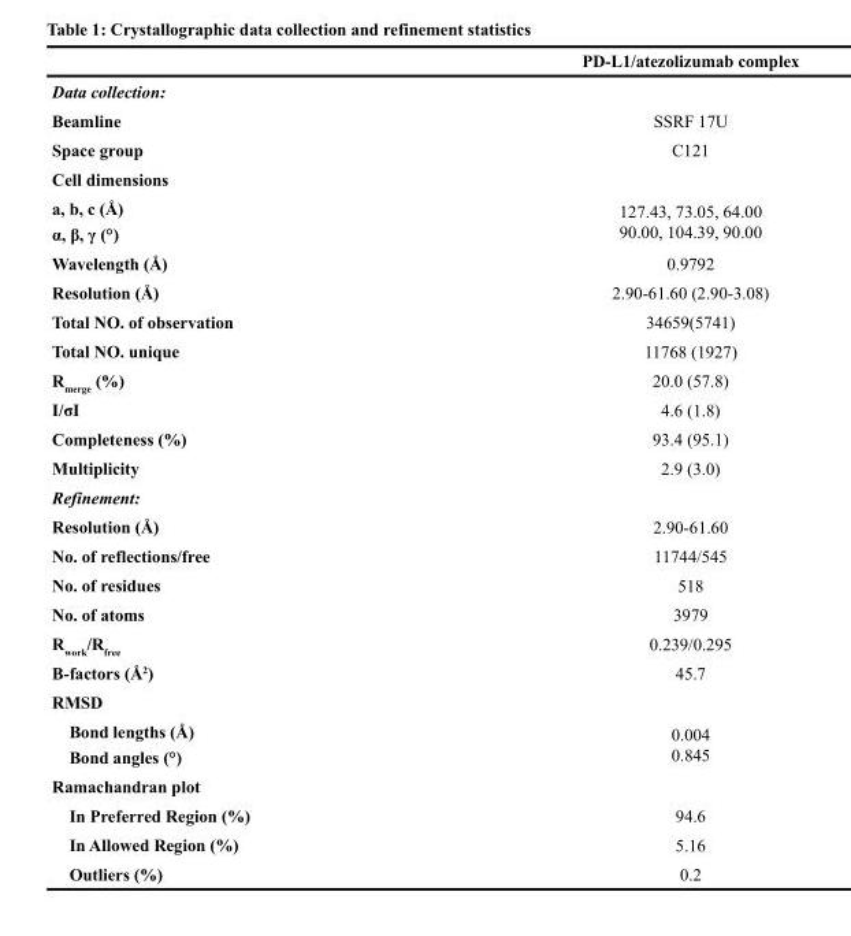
<table><thead><tr><td></td><td>PD-L1/atezolizumab complex</td></tr></thead><tbody><tr><td colspan="2">Data collection:</td></tr><tr><td>Beamline</td><td>SSRF 17U</td></tr><tr><td>Space group</td><td>C121</td></tr><tr><td colspan="2">Cell dimensions</td></tr><tr><td>a, b, c (Å) α, β, γ (°)</td><td>127.43, 73.05, 64.00 90.00, 104.39, 90.00</td></tr><tr><td>Wavelength (Å)</td><td>0.9792</td></tr><tr><td>Resolution (Å)</td><td>2.90-61.60 (2.90-3.08)</td></tr><tr><td>Total NO. of observation</td><td>34659(5741)</td></tr><tr><td>Total NO. unique</td><td>11768 (1927)</td></tr><tr><td>R<sub>merge</sub> (%)</td><td>20.0 (57.8)</td></tr><tr><td>I/σI</td><td>4.6 (1.8)</td></tr><tr><td>Completeness (%)</td><td>93.4 (95.1)</td></tr><tr><td>Multiplicity</td><td>2.9 (3.0)</td></tr><tr><td colspan="2">Refinement:</td></tr><tr><td>Resolution (Å)</td><td>2.90-61.60</td></tr><tr><td>No. of reflections/free</td><td>11744/545</td></tr><tr><td>No. of residues</td><td>518</td></tr><tr><td>No. of atoms</td><td>3979</td></tr><tr><td>R<sub>work</sub>/R<sub>free</sub></td><td>0.239/0.295</td></tr><tr><td>B-factors (Å<sup>2</sup>)</td><td>45.7</td></tr><tr><td colspan="2">RMSD</td></tr><tr><td>Bond lengths (Å) Bond angles (°)</td><td>0.004 0.845</td></tr><tr><td colspan="2">Ramachandran plot</td></tr><tr><td>In Preferred Region (%)</td><td>94.6</td></tr><tr><td>In Allowed Region (%)</td><td>5.16</td></tr><tr><td>Outliers (%)</td><td>0.2</td></tr></tbody></table>